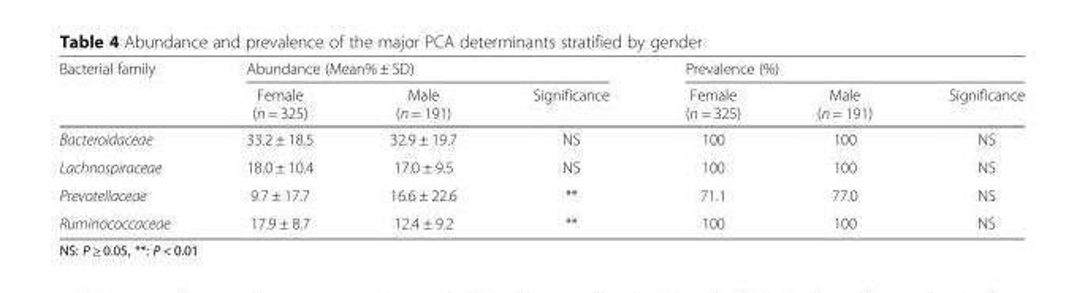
<table><thead><tr><td rowspan="2">Bacterial family</td><td colspan="3">Abundance (Mean% ± SD)</td><td colspan="3">Prevalence (%)</td></tr><tr><td>Female (n = 325)</td><td>Male (n = 191)</td><td>Significance</td><td>Female (n = 325)</td><td>Male (n = 191)</td><td>Significance</td></tr></thead><tbody><tr><td>Bacteroidaceae</td><td>33.2 ± 18.5</td><td>32.9 ± 19.7</td><td>NS</td><td>100</td><td>100</td><td>NS</td></tr><tr><td>Lachnospiraceae</td><td>18.0 ± 10.4</td><td>17.0 ± 9.5</td><td>NS</td><td>100</td><td>100</td><td>NS</td></tr><tr><td>Prevotellaceae</td><td>9.7 ± 17.7</td><td>16.6 ± 22.6</td><td>**</td><td>71.1</td><td>77.0</td><td>NS</td></tr><tr><td>Ruminococcaceae</td><td>17.9 ± 8.7</td><td>12.4 ± 9.2</td><td>**</td><td>100</td><td>100</td><td>NS</td></tr></tbody></table>